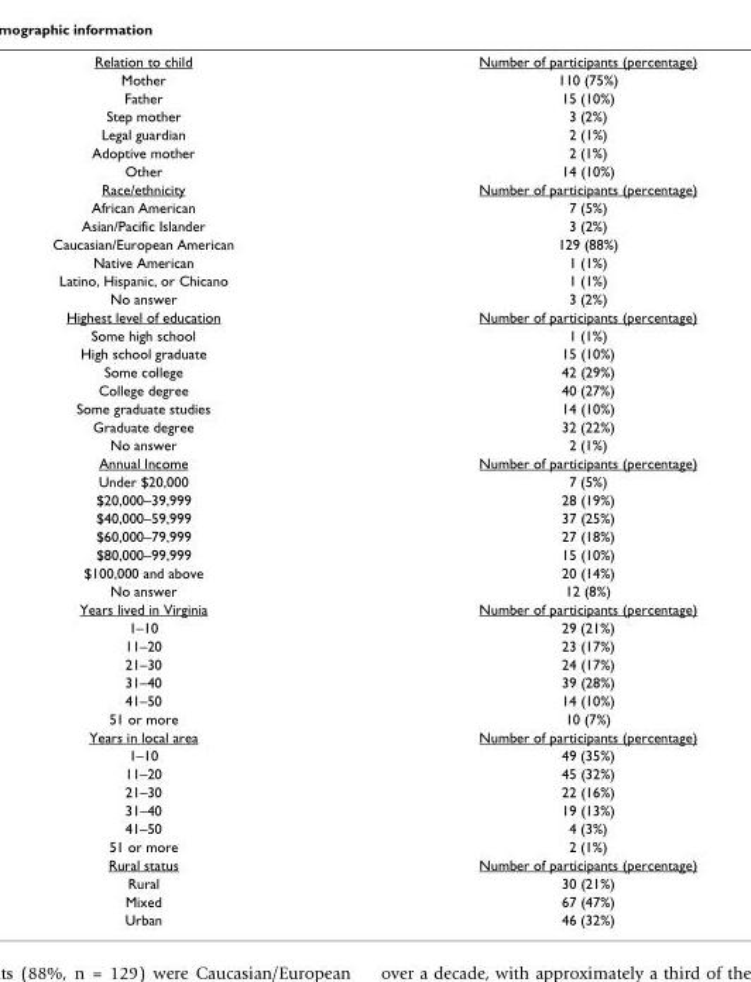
<table><tbody><tr><td>Relation to child</td><td>Number of participants (percentage)</td></tr><tr><td>Mother</td><td>110 (75%)</td></tr><tr><td>Father</td><td>15 (10%)</td></tr><tr><td>Step mother</td><td>3 (2%)</td></tr><tr><td>Legal guardian</td><td>2 (1%)</td></tr><tr><td>Adoptive mother</td><td>2 (1%)</td></tr><tr><td>Other</td><td>14 (10%)</td></tr><tr><td>Race/ethnicity</td><td>Number of participants (percentage)</td></tr><tr><td>African American</td><td>7 (5%)</td></tr><tr><td>Asian/Pacific Islander</td><td>3 (2%)</td></tr><tr><td>Caucasian/European American</td><td>129 (88%)</td></tr><tr><td>Native American</td><td>1 (1%)</td></tr><tr><td>Latino, Hispanic, or Chicano</td><td>1 (1%)</td></tr><tr><td>No answer</td><td>3 (2%)</td></tr><tr><td>Highest level of education</td><td>Number of participants (percentage)</td></tr><tr><td>Some high school</td><td>1 (1%)</td></tr><tr><td>High school graduate</td><td>15 (10%)</td></tr><tr><td>Some college</td><td>42 (29%)</td></tr><tr><td>College degree</td><td>40 (27%)</td></tr><tr><td>Some graduate studies</td><td>14 (10%)</td></tr><tr><td>Graduate degree</td><td>32 (22%)</td></tr><tr><td>No answer</td><td>2 (1%)</td></tr><tr><td>Annual Income</td><td>Number of participants (percentage)</td></tr><tr><td>Under $20,000</td><td>7 (5%)</td></tr><tr><td>$20,000–39,999</td><td>28 (19%)</td></tr><tr><td>$40,000–59,999</td><td>37 (25%)</td></tr><tr><td>$60,000–79,999</td><td>27 (18%)</td></tr><tr><td>$80,000–99,999</td><td>15 (10%)</td></tr><tr><td>$100,000 and above</td><td>20 (14%)</td></tr><tr><td>No answer</td><td>12 (8%)</td></tr><tr><td>Years lived in Virginia</td><td>Number of participants (percentage)</td></tr><tr><td>1–10</td><td>29 (21%)</td></tr><tr><td>11–20</td><td>23 (17%)</td></tr><tr><td>21–30</td><td>24 (17%)</td></tr><tr><td>31–40</td><td>39 (28%)</td></tr><tr><td>41–50</td><td>14 (10%)</td></tr><tr><td>51 or more</td><td>10 (7%)</td></tr><tr><td>Years in local area</td><td>Number of participants (percentage)</td></tr><tr><td>1–10</td><td>49 (35%)</td></tr><tr><td>11–20</td><td>45 (32%)</td></tr><tr><td>21–30</td><td>22 (16%)</td></tr><tr><td>31–40</td><td>19 (13%)</td></tr><tr><td>41–50</td><td>4 (3%)</td></tr><tr><td>51 or more</td><td>2 (1%)</td></tr><tr><td>Rural status</td><td>Number of participants (percentage)</td></tr><tr><td>Rural</td><td>30 (21%)</td></tr><tr><td>Mixed</td><td>67 (47%)</td></tr><tr><td>Urban</td><td>46 (32%)</td></tr></tbody></table>